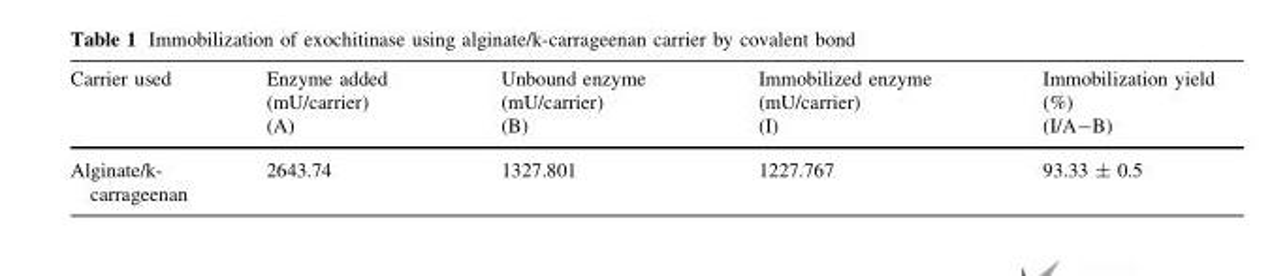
<table><thead><tr><td rowspan="2">Carrier used</td><td rowspan="2">Enzyme added (mU/carrier) (A)</td><td rowspan="2">Unbound enzyme (mU/carrier) (B)</td><td rowspan="2">Immobilized enzyme (mU/carrier) (I)</td><td rowspan="2">Immobilization yield (%) (I/A-B)</td></tr><tr></tr></thead><tbody><tr><td>Alginate/k- carrageenan</td><td>2643.74</td><td>1327.801</td><td>1227.767</td><td>93.33 ± 0.5</td></tr></tbody></table>